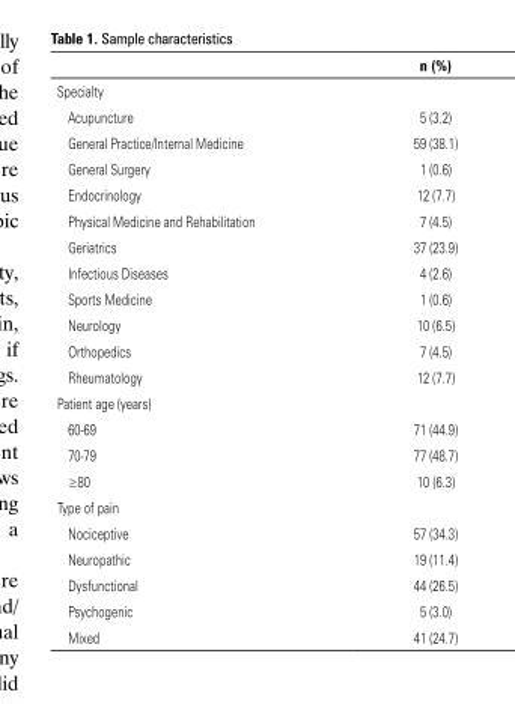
<table><thead><tr><td></td><td>n (%)</td></tr></thead><tbody><tr><td colspan="2">Specialty</td></tr><tr><td>Acupuncture</td><td>5 (3.2)</td></tr><tr><td>General Practice/Internal Medicine</td><td>59 (38.1)</td></tr><tr><td>General Surgery</td><td>1 (0.6)</td></tr><tr><td>Endocrinology</td><td>12 (7.7)</td></tr><tr><td>Physical Medicine and Rehabilitation</td><td>7 (4.5)</td></tr><tr><td>Geriatrics</td><td>37 (23.9)</td></tr><tr><td>Infectious Diseases</td><td>4 (2.6)</td></tr><tr><td>Sports Medicine</td><td>1 (0.6)</td></tr><tr><td>Neurology</td><td>10 (6.5)</td></tr><tr><td>Orthopedics</td><td>7 (4.5)</td></tr><tr><td>Rheumatology</td><td>12 (7.7)</td></tr><tr><td colspan="2">Patient age (years)</td></tr><tr><td>60-69</td><td>71 (44.9)</td></tr><tr><td>70-79</td><td>77 (48.7)</td></tr><tr><td>≥80</td><td>10 (6.3)</td></tr><tr><td colspan="2">Type of pain</td></tr><tr><td>Nociceptive</td><td>57 (34.3)</td></tr><tr><td>Neuropathic</td><td>19 (11.4)</td></tr><tr><td>Dysfunctional</td><td>44 (26.5)</td></tr><tr><td>Psychogenic</td><td>5 (3.0)</td></tr><tr><td>Mixed</td><td>41 (24.7)</td></tr></tbody></table>